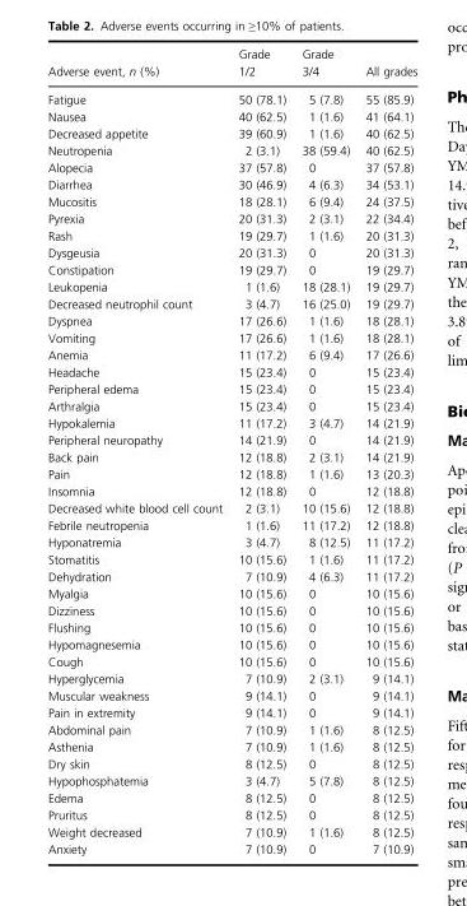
<table><thead><tr><td>Adverse event, n (%)</td><td>Grade 1/2</td><td>Grade 3/4</td><td>All grades</td></tr></thead><tbody><tr><td>Fatigue</td><td>50 (78.1)</td><td>5 (7.8)</td><td>55 (85.9)</td></tr><tr><td>Nausea</td><td>40 (62.5)</td><td>1 (1.6)</td><td>41 (64.1)</td></tr><tr><td>Decreased appetite</td><td>39 (60.9)</td><td>1 (1.6)</td><td>40 (62.5)</td></tr><tr><td>Neutropenia</td><td>2 (3.1)</td><td>38 (59.4)</td><td>40 (62.5)</td></tr><tr><td>Alopecia</td><td>37 (57.8)</td><td>0</td><td>37 (57.8)</td></tr><tr><td>Diarrhea</td><td>30 (46.9)</td><td>4 (6.3)</td><td>34 (53.1)</td></tr><tr><td>Mucositis</td><td>18 (28.1)</td><td>6 (9.4)</td><td>24 (37.5)</td></tr><tr><td>Pyrexia</td><td>20 (31.3)</td><td>2 (3.1)</td><td>22 (34.4)</td></tr><tr><td>Rash</td><td>19 (29.7)</td><td>1 (1.6)</td><td>20 (31.3)</td></tr><tr><td>Dysgeusia</td><td>20 (31.3)</td><td>0</td><td>20 (31.3)</td></tr><tr><td>Constipation</td><td>19 (29.7)</td><td>0</td><td>19 (29.7)</td></tr><tr><td>Leukopenia</td><td>1 (1.6)</td><td>18 (28.1)</td><td>19 (29.7)</td></tr><tr><td>Decreased neutrophil count</td><td>3 (4.7)</td><td>16 (25.0)</td><td>19 (29.7)</td></tr><tr><td>Dyspnea</td><td>17 (26.6)</td><td>1 (1.6)</td><td>18 (28.1)</td></tr><tr><td>Vomiting</td><td>17 (26.6)</td><td>1 (1.6)</td><td>18 (28.1)</td></tr><tr><td>Anemia</td><td>11 (17.2)</td><td>6 (9.4)</td><td>17 (26.6)</td></tr><tr><td>Headache</td><td>15 (23.4)</td><td>0</td><td>15 (23.4)</td></tr><tr><td>Peripheral edema</td><td>15 (23.4)</td><td>0</td><td>15 (23.4)</td></tr><tr><td>Arthralgia</td><td>15 (23.4)</td><td>0</td><td>15 (23.4)</td></tr><tr><td>Hypokalemia</td><td>11 (17.2)</td><td>3 (4.7)</td><td>14 (21.9)</td></tr><tr><td>Peripheral neuropathy</td><td>14 (21.9)</td><td>0</td><td>14 (21.9)</td></tr><tr><td>Back pain</td><td>12 (18.8)</td><td>2 (3.1)</td><td>14 (21.9)</td></tr><tr><td>Pain</td><td>12 (18.8)</td><td>1 (1.6)</td><td>13 (20.3)</td></tr><tr><td>Insomnia</td><td>12 (18.8)</td><td>0</td><td>12 (18.8)</td></tr><tr><td>Decreased white blood cell count</td><td>2 (3.1)</td><td>10 (15.6)</td><td>12 (18.8)</td></tr><tr><td>Febrile neutropenia</td><td>1 (1.6)</td><td>11 (17.2)</td><td>12 (18.8)</td></tr><tr><td>Hyponatremia</td><td>3 (4.7)</td><td>8 (12.5)</td><td>11 (17.2)</td></tr><tr><td>Stomatitis</td><td>10 (15.6)</td><td>1 (1.6)</td><td>11 (17.2)</td></tr><tr><td>Dehydration</td><td>7 (10.9)</td><td>4 (6.3)</td><td>11 (17.2)</td></tr><tr><td>Myalgia</td><td>10 (15.6)</td><td>0</td><td>10 (15.6)</td></tr><tr><td>Dizziness</td><td>10 (15.6)</td><td>0</td><td>10 (15.6)</td></tr><tr><td>Flushing</td><td>10 (15.6)</td><td>0</td><td>10 (15.6)</td></tr><tr><td>Hypomagnesemia</td><td>10 (15.6)</td><td>0</td><td>10 (15.6)</td></tr><tr><td>Cough</td><td>10 (15.6)</td><td>0</td><td>10 (15.6)</td></tr><tr><td>Hyperglycemia</td><td>7 (10.9)</td><td>2 (3.1)</td><td>9 (14.1)</td></tr><tr><td>Muscular weakness</td><td>9 (14.1)</td><td>0</td><td>9 (14.1)</td></tr><tr><td>Pain in extremity</td><td>9 (14.1)</td><td>0</td><td>9 (14.1)</td></tr><tr><td>Abdominal pain</td><td>7 (10.9)</td><td>1 (1.6)</td><td>8 (12.5)</td></tr><tr><td>Asthenia</td><td>7 (10.9)</td><td>1 (1.6)</td><td>8 (12.5)</td></tr><tr><td>Dry skin</td><td>8 (12.5)</td><td>0</td><td>8 (12.5)</td></tr><tr><td>Hypophosphatemia</td><td>3 (4.7)</td><td>5 (7.8)</td><td>8 (12.5)</td></tr><tr><td>Edema</td><td>8 (12.5)</td><td>0</td><td>8 (12.5)</td></tr><tr><td>Pruritus</td><td>8 (12.5)</td><td>0</td><td>8 (12.5)</td></tr><tr><td>Weight decreased</td><td>7 (10.9)</td><td>1 (1.6)</td><td>8 (12.5)</td></tr><tr><td>Anxiety</td><td>7 (10.9)</td><td>0</td><td>7 (10.9)</td></tr></tbody></table>